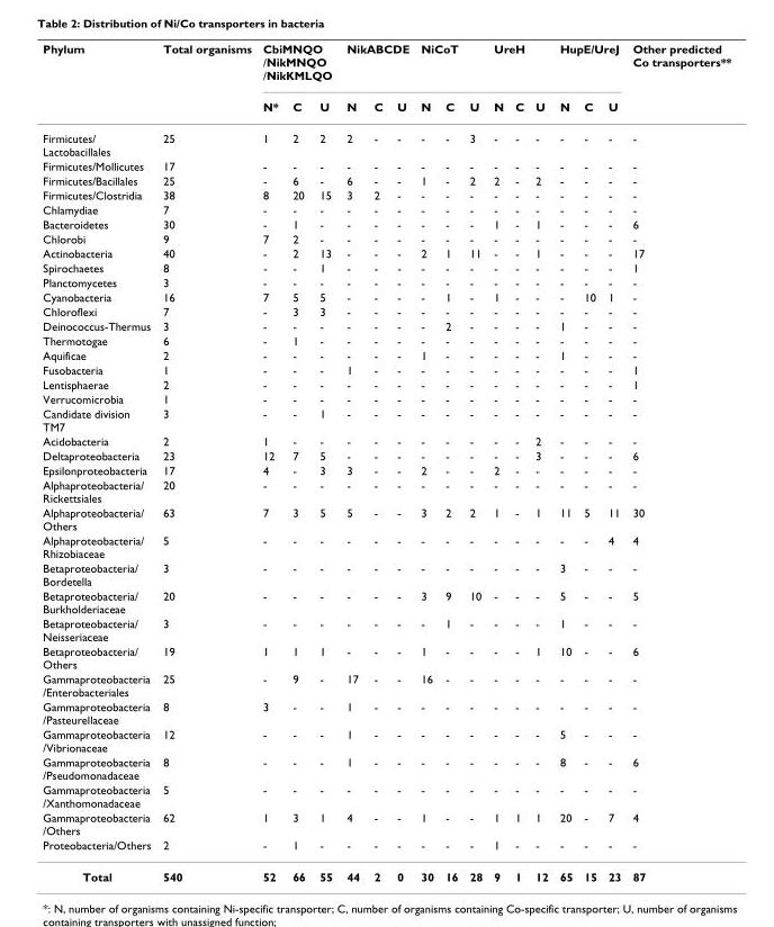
<table><thead><tr><td rowspan="2">Phylum</td><td rowspan="2">Total organisms</td><td colspan="3">CbiMNQO /NikMNQO /NikKMLQO</td><td colspan="3">NikABCDE</td><td colspan="3">NiCoT</td><td colspan="3">UreH</td><td colspan="3">HupE/UreJ</td><td rowspan="2">Other predicted Co transporters**</td></tr><tr><td>N*</td><td>C</td><td>U</td><td>N</td><td>C</td><td>U</td><td>N</td><td>C</td><td>U</td><td>N</td><td>C</td><td>U</td><td>N</td><td>C</td><td>U</td></tr></thead><tbody><tr><td>Firmicutes/ Lactobacillales</td><td>25</td><td>1</td><td>2</td><td>2</td><td>2</td><td>-</td><td>-</td><td>-</td><td>-</td><td>3</td><td>-</td><td>-</td><td>-</td><td>-</td><td>-</td><td>-</td><td>-</td></tr><tr><td>Firmicutes/Mollicutes</td><td>17</td><td>-</td><td>-</td><td>-</td><td>-</td><td>-</td><td>-</td><td>-</td><td>-</td><td>-</td><td>-</td><td>-</td><td>-</td><td>-</td><td>-</td><td>-</td><td>-</td></tr><tr><td>Firmicutes/Bacillales</td><td>25</td><td>-</td><td>6</td><td>-</td><td>6</td><td>-</td><td>-</td><td>1</td><td>-</td><td>2</td><td>2</td><td>-</td><td>2</td><td>-</td><td>-</td><td>-</td><td>-</td></tr><tr><td>Firmicutes/Clostridia</td><td>38</td><td>8</td><td>20</td><td>15</td><td>3</td><td>2</td><td>-</td><td>-</td><td>-</td><td>-</td><td>-</td><td>-</td><td>-</td><td>-</td><td>-</td><td>-</td><td>-</td></tr><tr><td>Chlamydiae</td><td>7</td><td>-</td><td>-</td><td>-</td><td>-</td><td>-</td><td>-</td><td>-</td><td>-</td><td>-</td><td>-</td><td>-</td><td>-</td><td>-</td><td>-</td><td>-</td><td>-</td></tr><tr><td>Bacteroidetes</td><td>30</td><td>-</td><td>1</td><td>-</td><td>-</td><td>-</td><td>-</td><td>-</td><td>-</td><td>-</td><td>1</td><td>-</td><td>1</td><td>-</td><td>-</td><td>-</td><td>6</td></tr><tr><td>Chlorobi</td><td>9</td><td>7</td><td>2</td><td>-</td><td>-</td><td>-</td><td>-</td><td>-</td><td>-</td><td>-</td><td>-</td><td>-</td><td>-</td><td>-</td><td>-</td><td>-</td><td>-</td></tr><tr><td>Actinobacteria</td><td>40</td><td>-</td><td>2</td><td>13</td><td>-</td><td>-</td><td>-</td><td>2</td><td>1</td><td>11</td><td>-</td><td>-</td><td>1</td><td>-</td><td>-</td><td>-</td><td>17</td></tr><tr><td>Spirochaetes</td><td>8</td><td>-</td><td>-</td><td>1</td><td>-</td><td>-</td><td>-</td><td>-</td><td>-</td><td>-</td><td>-</td><td>-</td><td>-</td><td>-</td><td>-</td><td>-</td><td>1</td></tr><tr><td>Planctomycetes</td><td>3</td><td>-</td><td>-</td><td>-</td><td>-</td><td>-</td><td>-</td><td>-</td><td>-</td><td>-</td><td>-</td><td>-</td><td>-</td><td>-</td><td>-</td><td>-</td><td>-</td></tr><tr><td>Cyanobacteria</td><td>16</td><td>7</td><td>5</td><td>5</td><td>-</td><td>-</td><td>-</td><td>-</td><td>1</td><td>-</td><td>1</td><td>-</td><td>-</td><td>-</td><td>10</td><td>1</td><td>-</td></tr><tr><td>Chloroflexi</td><td>7</td><td>-</td><td>3</td><td>3</td><td>-</td><td>-</td><td>-</td><td>-</td><td>-</td><td>-</td><td>-</td><td>-</td><td>-</td><td>-</td><td>-</td><td>-</td><td>-</td></tr><tr><td>Deinococcus-Thermus</td><td>3</td><td>-</td><td>-</td><td>-</td><td>-</td><td>-</td><td>-</td><td>-</td><td>2</td><td>-</td><td>-</td><td>-</td><td>-</td><td>1</td><td>-</td><td>-</td><td>-</td></tr><tr><td>Thermotogae</td><td>6</td><td>-</td><td>1</td><td>-</td><td>-</td><td>-</td><td>-</td><td>-</td><td>-</td><td>-</td><td>-</td><td>-</td><td>-</td><td>-</td><td>-</td><td>-</td><td>-</td></tr><tr><td>Aquificae</td><td>2</td><td>-</td><td>-</td><td>-</td><td>-</td><td>-</td><td>-</td><td>1</td><td>-</td><td>-</td><td>-</td><td>-</td><td>-</td><td>1</td><td>-</td><td>-</td><td>-</td></tr><tr><td>Fusobacteria</td><td>1</td><td>-</td><td>-</td><td>-</td><td>1</td><td>-</td><td>-</td><td>-</td><td>-</td><td>-</td><td>-</td><td>-</td><td>-</td><td>-</td><td>-</td><td>-</td><td>1</td></tr><tr><td>Lentisphaerae</td><td>2</td><td>-</td><td>-</td><td>-</td><td>-</td><td>-</td><td>-</td><td>-</td><td>-</td><td>-</td><td>-</td><td>-</td><td>-</td><td>-</td><td>-</td><td>-</td><td>1</td></tr><tr><td>Verrucomicrobia</td><td>1</td><td>-</td><td>-</td><td>-</td><td>-</td><td>-</td><td>-</td><td>-</td><td>-</td><td>-</td><td>-</td><td>-</td><td>-</td><td>-</td><td>-</td><td>-</td><td>-</td></tr><tr><td>Candidate division TM7</td><td>3</td><td>-</td><td>-</td><td>1</td><td>-</td><td>-</td><td>-</td><td>-</td><td>-</td><td>-</td><td>-</td><td>-</td><td>-</td><td>-</td><td>-</td><td>-</td><td>-</td></tr><tr><td>Acidobacteria</td><td>2</td><td>1</td><td>-</td><td>-</td><td>-</td><td>-</td><td>-</td><td>-</td><td>-</td><td>-</td><td>-</td><td>-</td><td>2</td><td>-</td><td>-</td><td>-</td><td>-</td></tr><tr><td>Deltaproteobacteria</td><td>23</td><td>12</td><td>7</td><td>5</td><td>-</td><td>-</td><td>-</td><td>-</td><td>-</td><td>-</td><td>-</td><td>-</td><td>3</td><td>-</td><td>-</td><td>-</td><td>6</td></tr><tr><td>Epsilonproteobacteria</td><td>17</td><td>4</td><td>-</td><td>3</td><td>3</td><td>-</td><td>-</td><td>2</td><td>-</td><td>-</td><td>2</td><td>-</td><td>-</td><td>-</td><td>-</td><td>-</td><td>-</td></tr><tr><td>Alphaproteobacteria/ Rickettsiales</td><td>20</td><td>-</td><td>-</td><td>-</td><td>-</td><td>-</td><td>-</td><td>-</td><td>-</td><td>-</td><td>-</td><td>-</td><td>-</td><td>-</td><td>-</td><td>-</td><td>-</td></tr><tr><td>Alphaproteobacteria/ Others</td><td>63</td><td>7</td><td>3</td><td>5</td><td>5</td><td>-</td><td>-</td><td>3</td><td>2</td><td>2</td><td>1</td><td>-</td><td>1</td><td>11</td><td>5</td><td>11</td><td>30</td></tr><tr><td>Alphaproteobacteria/ Rhizobiaceae</td><td>5</td><td>-</td><td>-</td><td>-</td><td>-</td><td>-</td><td>-</td><td>-</td><td>-</td><td>-</td><td>-</td><td>-</td><td>-</td><td>-</td><td>-</td><td>4</td><td>4</td></tr><tr><td>Betaproteobacteria/ Bordetella</td><td>3</td><td>-</td><td>-</td><td>-</td><td>-</td><td>-</td><td>-</td><td>-</td><td>-</td><td>-</td><td>-</td><td>-</td><td>-</td><td>3</td><td>-</td><td>-</td><td>-</td></tr><tr><td>Betaproteobacteria/ Burkholderiaceae</td><td>20</td><td>-</td><td>-</td><td>-</td><td>-</td><td>-</td><td>-</td><td>3</td><td>9</td><td>10</td><td>-</td><td>-</td><td>-</td><td>5</td><td>-</td><td>-</td><td>5</td></tr><tr><td>Betaproteobacteria/ Neisseriaceae</td><td>3</td><td>-</td><td>-</td><td>-</td><td>-</td><td>-</td><td>-</td><td>-</td><td>1</td><td>-</td><td>-</td><td>-</td><td>-</td><td>1</td><td>-</td><td>-</td><td>-</td></tr><tr><td>Betaproteobacteria/ Others</td><td>19</td><td>1</td><td>1</td><td>1</td><td>-</td><td>-</td><td>-</td><td>1</td><td>-</td><td>-</td><td>-</td><td>-</td><td>1</td><td>10</td><td>-</td><td>-</td><td>6</td></tr><tr><td>Gammaproteobacteria /Enterobacteriales</td><td>25</td><td>-</td><td>9</td><td>-</td><td>17</td><td>-</td><td>-</td><td>16</td><td>-</td><td>-</td><td>-</td><td>-</td><td>-</td><td>-</td><td>-</td><td>-</td><td>-</td></tr><tr><td>Gammaproteobacteria /Pasteurellaceae</td><td>8</td><td>3</td><td>-</td><td>-</td><td>1</td><td>-</td><td>-</td><td>-</td><td>-</td><td>-</td><td>-</td><td>-</td><td>-</td><td>-</td><td>-</td><td>-</td><td>-</td></tr><tr><td>Gammaproteobacteria /Vibrionaceae</td><td>12</td><td>-</td><td>-</td><td>-</td><td>1</td><td>-</td><td>-</td><td>-</td><td>-</td><td>-</td><td>-</td><td>-</td><td>-</td><td>5</td><td>-</td><td>-</td><td>-</td></tr><tr><td>Gammaproteobacteria /Pseudomonadaceae</td><td>8</td><td>-</td><td>-</td><td>-</td><td>1</td><td>-</td><td>-</td><td>-</td><td>-</td><td>-</td><td>-</td><td>-</td><td>-</td><td>8</td><td>-</td><td>-</td><td>6</td></tr><tr><td>Gammaproteobacteria /Xanthomonadaceae</td><td>5</td><td>-</td><td>-</td><td>-</td><td>-</td><td>-</td><td>-</td><td>-</td><td>-</td><td>-</td><td>-</td><td>-</td><td>-</td><td>-</td><td>-</td><td>-</td><td>-</td></tr><tr><td>Gammaproteobacteria /Others</td><td>62</td><td>1</td><td>3</td><td>1</td><td>4</td><td>-</td><td>-</td><td>1</td><td>-</td><td>-</td><td>1</td><td>1</td><td>1</td><td>20</td><td>-</td><td>7</td><td>4</td></tr><tr><td>Proteobacteria/Others</td><td>2</td><td>-</td><td>1</td><td>-</td><td>-</td><td>-</td><td>-</td><td>-</td><td>-</td><td>-</td><td>1</td><td>-</td><td>-</td><td>-</td><td>-</td><td>-</td><td>-</td></tr><tr><td>Total</td><td>540</td><td>52</td><td>66</td><td>55</td><td>44</td><td>2</td><td>0</td><td>30</td><td>16</td><td>28</td><td>9</td><td>1</td><td>12</td><td>65</td><td>15</td><td>23</td><td>87</td></tr></tbody></table>